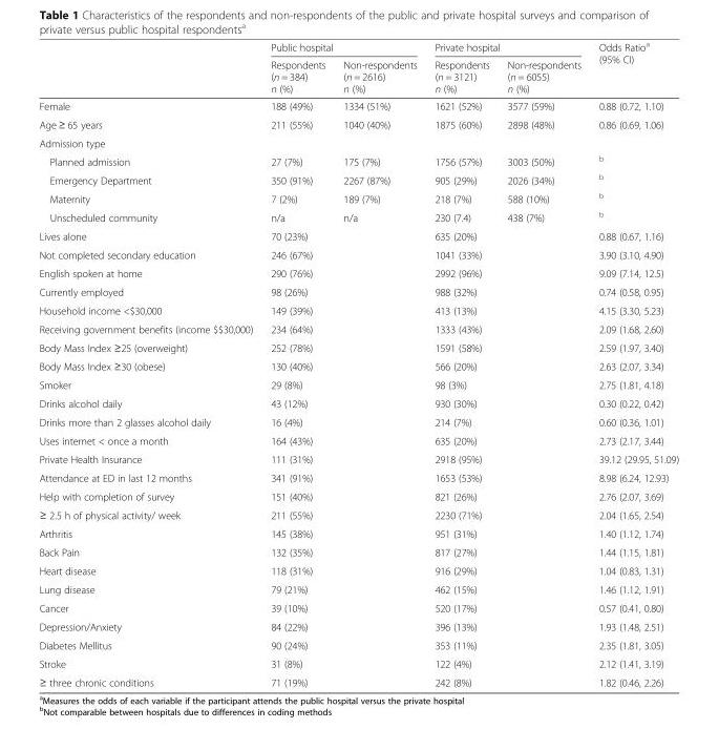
<table><thead><tr><td rowspan="2"></td><td colspan="2">Public hospital</td><td colspan="2">Private hospital</td><td rowspan="2">Odds Ratio<sup>a</sup> (95% CI)</td></tr><tr><td>Respondents (n = 384) n (%)</td><td>Non-respondents (n = 2616) n (%)</td><td>Respondents (n = 3121) n (%)</td><td>Non-respondents (n = 6055) n (%)</td></tr></thead><tbody><tr><td>Female</td><td>188 (49%)</td><td>1334 (51%)</td><td>1621 (52%)</td><td>3577 (59%)</td><td>0.88 (0.72, 1.10)</td></tr><tr><td>Age ≥ 65 years</td><td>211 (55%)</td><td>1040 (40%)</td><td>1875 (60%)</td><td>2898 (48%)</td><td>0.86 (0.69, 1.06)</td></tr><tr><td colspan="6">Admission type</td></tr><tr><td>Planned admission</td><td>27 (7%)</td><td>175 (7%)</td><td>1756 (57%)</td><td>3003 (50%)</td><td><sup>b</sup></td></tr><tr><td>Emergency Department</td><td>350 (91%)</td><td>2267 (87%)</td><td>905 (29%)</td><td>2026 (34%)</td><td><sup>b</sup></td></tr><tr><td>Maternity</td><td>7 (2%)</td><td>189 (7%)</td><td>218 (7%)</td><td>588 (10%)</td><td><sup>b</sup></td></tr><tr><td>Unscheduled community</td><td>n/a</td><td>n/a</td><td>230 (7.4)</td><td>438 (7%)</td><td><sup>b</sup></td></tr><tr><td>Lives alone</td><td>70 (23%)</td><td></td><td>635 (20%)</td><td></td><td>0.88 (0.67, 1.16)</td></tr><tr><td>Not completed secondary education</td><td>246 (67%)</td><td></td><td>1041 (33%)</td><td></td><td>3.90 (3.10, 4.90)</td></tr><tr><td>English spoken at home</td><td>290 (76%)</td><td></td><td>2992 (96%)</td><td></td><td>9.09 (7.14, 12.5)</td></tr><tr><td>Currently employed</td><td>98 (26%)</td><td></td><td>988 (32%)</td><td></td><td>0.74 (0.58, 0.95)</td></tr><tr><td>Household income &lt;$30,000</td><td>149 (39%)</td><td></td><td>413 (13%)</td><td></td><td>4.15 (3.30, 5.23)</td></tr><tr><td>Receiving government benefits (income $$30,000)</td><td>234 (64%)</td><td></td><td>1333 (43%)</td><td></td><td>2.09 (1.68, 2.60)</td></tr><tr><td>Body Mass Index ≥25 (overweight)</td><td>252 (78%)</td><td></td><td>1591 (58%)</td><td></td><td>2.59 (1.97, 3.40)</td></tr><tr><td>Body Mass Index ≥30 (obese)</td><td>130 (40%)</td><td></td><td>566 (20%)</td><td></td><td>2.63 (2.07, 3.34)</td></tr><tr><td>Smoker</td><td>29 (8%)</td><td></td><td>98 (3%)</td><td></td><td>2.75 (1.81, 4.18)</td></tr><tr><td>Drinks alcohol daily</td><td>43 (12%)</td><td></td><td>930 (30%)</td><td></td><td>0.30 (0.22, 0.42)</td></tr><tr><td>Drinks more than 2 glasses alcohol daily</td><td>16 (4%)</td><td></td><td>214 (7%)</td><td></td><td>0.60 (0.36, 1.01)</td></tr><tr><td>Uses internet &lt; once a month</td><td>164 (43%)</td><td></td><td>635 (20%)</td><td></td><td>2.73 (2.17, 3.44)</td></tr><tr><td>Private Health Insurance</td><td>111 (31%)</td><td></td><td>2918 (95%)</td><td></td><td>39.12 (29.95, 51.09)</td></tr><tr><td>Attendance at ED in last 12 months</td><td>341 (91%)</td><td></td><td>1653 (53%)</td><td></td><td>8.98 (6.24, 12.93)</td></tr><tr><td>Help with completion of survey</td><td>151 (40%)</td><td></td><td>821 (26%)</td><td></td><td>2.76 (2.07, 3.69)</td></tr><tr><td>≥ 2.5 h of physical activity/ week</td><td>211 (55%)</td><td></td><td>2230 (71%)</td><td></td><td>2.04 (1.65, 2.54)</td></tr><tr><td>Arthritis</td><td>145 (38%)</td><td></td><td>951 (31%)</td><td></td><td>1.40 (1.12, 1.74)</td></tr><tr><td>Back Pain</td><td>132 (35%)</td><td></td><td>817 (27%)</td><td></td><td>1.44 (1.15, 1.81)</td></tr><tr><td>Heart disease</td><td>118 (31%)</td><td></td><td>916 (29%)</td><td></td><td>1.04 (0.83, 1.31)</td></tr><tr><td>Lung disease</td><td>79 (21%)</td><td></td><td>462 (15%)</td><td></td><td>1.46 (1.12, 1.91)</td></tr><tr><td>Cancer</td><td>39 (10%)</td><td></td><td>520 (17%)</td><td></td><td>0.57 (0.41, 0.80)</td></tr><tr><td>Depression/Anxiety</td><td>84 (22%)</td><td></td><td>396 (13%)</td><td></td><td>1.93 (1.48, 2.51)</td></tr><tr><td>Diabetes Mellitus</td><td>90 (24%)</td><td></td><td>353 (11%)</td><td></td><td>2.35 (1.81, 3.05)</td></tr><tr><td>Stroke</td><td>31 (8%)</td><td></td><td>122 (4%)</td><td></td><td>2.12 (1.41, 3.19)</td></tr><tr><td>≥ three chronic conditions</td><td>71 (19%)</td><td></td><td>242 (8%)</td><td></td><td>1.82 (0.46, 2.26)</td></tr></tbody></table>